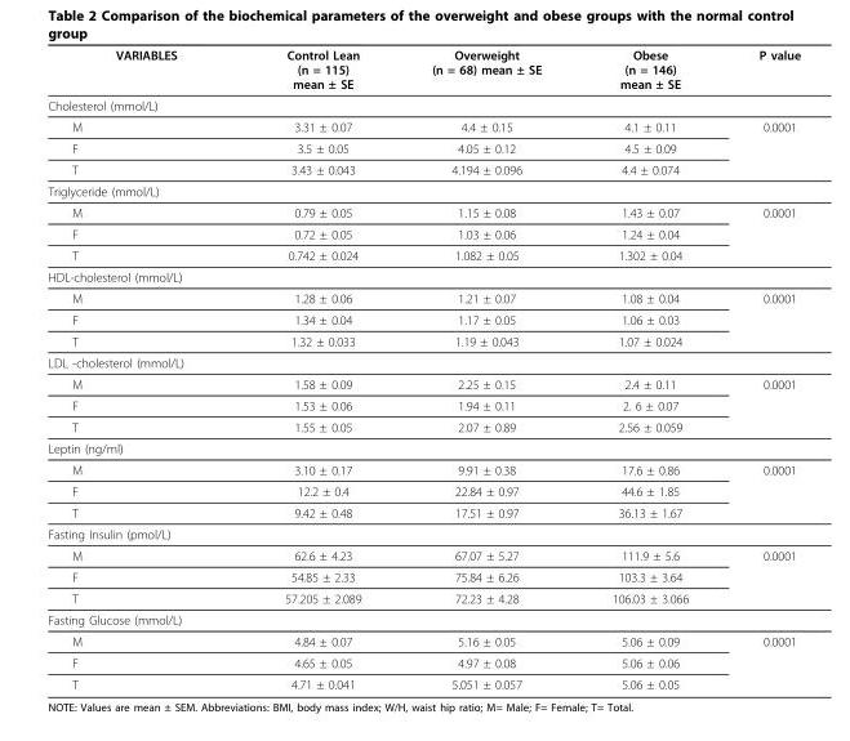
<table><thead><tr><td>VARIABLES</td><td>Control Lean (n = 115) mean ± SE</td><td>Overweight (n = 68) mean ± SE</td><td>Obese (n = 146) mean ± SE</td><td>P value</td></tr></thead><tbody><tr><td colspan="5">Cholesterol (mmol/L)</td></tr><tr><td>M</td><td>3.31 ± 0.07</td><td>4.4 ± 0.15</td><td>4.1 ± 0.11</td><td>0.0001</td></tr><tr><td>F</td><td>3.5 ± 0.05</td><td>4.05 ± 0.12</td><td>4.5 ± 0.09</td><td></td></tr><tr><td>T</td><td>3.43 ± 0.043</td><td>4.194 ± 0.096</td><td>4.4 ± 0.074</td><td></td></tr><tr><td colspan="5">Triglyceride (mmol/L)</td></tr><tr><td>M</td><td>0.79 ± 0.05</td><td>1.15 ± 0.08</td><td>1.43 ± 0.07</td><td>0.0001</td></tr><tr><td>F</td><td>0.72 ± 0.05</td><td>1.03 ± 0.06</td><td>1.24 ± 0.04</td><td></td></tr><tr><td>T</td><td>0.742 ± 0.024</td><td>1.082 ± 0.05</td><td>1.302 ± 0.04</td><td></td></tr><tr><td colspan="5">HDL-cholesterol (mmol/L)</td></tr><tr><td>M</td><td>1.28 ± 0.06</td><td>1.21 ± 0.07</td><td>1.08 ± 0.04</td><td>0.0001</td></tr><tr><td>F</td><td>1.34 ± 0.04</td><td>1.17 ± 0.05</td><td>1.06 ± 0.03</td><td></td></tr><tr><td>T</td><td>1.32 ± 0.033</td><td>1.19 ± 0.043</td><td>1.07 ± 0.024</td><td></td></tr><tr><td colspan="5">LDL -cholesterol (mmol/L)</td></tr><tr><td>M</td><td>1.58 ± 0.09</td><td>2.25 ± 0.15</td><td>2.4 ± 0.11</td><td>0.0001</td></tr><tr><td>F</td><td>1.53 ± 0.06</td><td>1.94 ± 0.11</td><td>2. 6 ± 0.07</td><td></td></tr><tr><td>T</td><td>1.55 ± 0.05</td><td>2.07 ± 0.89</td><td>2.56 ± 0.059</td><td></td></tr><tr><td colspan="5">Leptin (ng/ml)</td></tr><tr><td>M</td><td>3.10 ± 0.17</td><td>9.91 ± 0.38</td><td>17.6 ± 0.86</td><td>0.0001</td></tr><tr><td>F</td><td>12.2 ± 0.4</td><td>22.84 ± 0.97</td><td>44.6 ± 1.85</td><td></td></tr><tr><td>T</td><td>9.42 ± 0.48</td><td>17.51 ± 0.97</td><td>36.13 ± 1.67</td><td></td></tr><tr><td colspan="5">Fasting Insulin (pmol/L)</td></tr><tr><td>M</td><td>62.6 ± 4.23</td><td>67.07 ± 5.27</td><td>111.9 ± 5.6</td><td>0.0001</td></tr><tr><td>F</td><td>54.85 ± 2.33</td><td>75.84 ± 6.26</td><td>103.3 ± 3.64</td><td></td></tr><tr><td>T</td><td>57.205 ± 2.089</td><td>72.23 ± 4.28</td><td>106.03 ± 3.066</td><td></td></tr><tr><td colspan="5">Fasting Glucose (mmol/L)</td></tr><tr><td>M</td><td>4.84 ± 0.07</td><td>5.16 ± 0.05</td><td>5.06 ± 0.09</td><td>0.0001</td></tr><tr><td>F</td><td>4.65 ± 0.05</td><td>4.97 ± 0.08</td><td>5.06 ± 0.06</td><td></td></tr><tr><td>T</td><td>4.71 ± 0.041</td><td>5.051 ± 0.057</td><td>5.06 ± 0.05</td><td></td></tr></tbody></table>